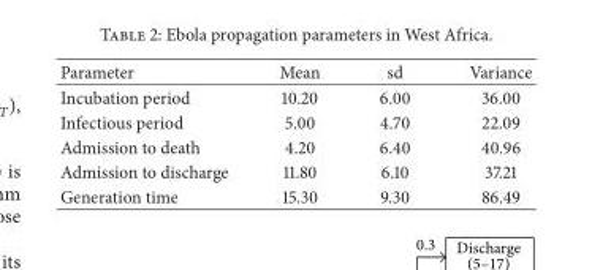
<table><thead><tr><td>Parameter</td><td>Mean</td><td>sd</td><td>Variance</td></tr></thead><tbody><tr><td>Incubation period</td><td>10.20</td><td>6.00</td><td>36.00</td></tr><tr><td>Infectious period</td><td>5.00</td><td>4.70</td><td>22.09</td></tr><tr><td>Admission to death</td><td>4.20</td><td>6.40</td><td>40.96</td></tr><tr><td>Admission to discharge</td><td>11.80</td><td>6.10</td><td>37.21</td></tr><tr><td>Generation time</td><td>15.30</td><td>9.30</td><td>86.49</td></tr></tbody></table>